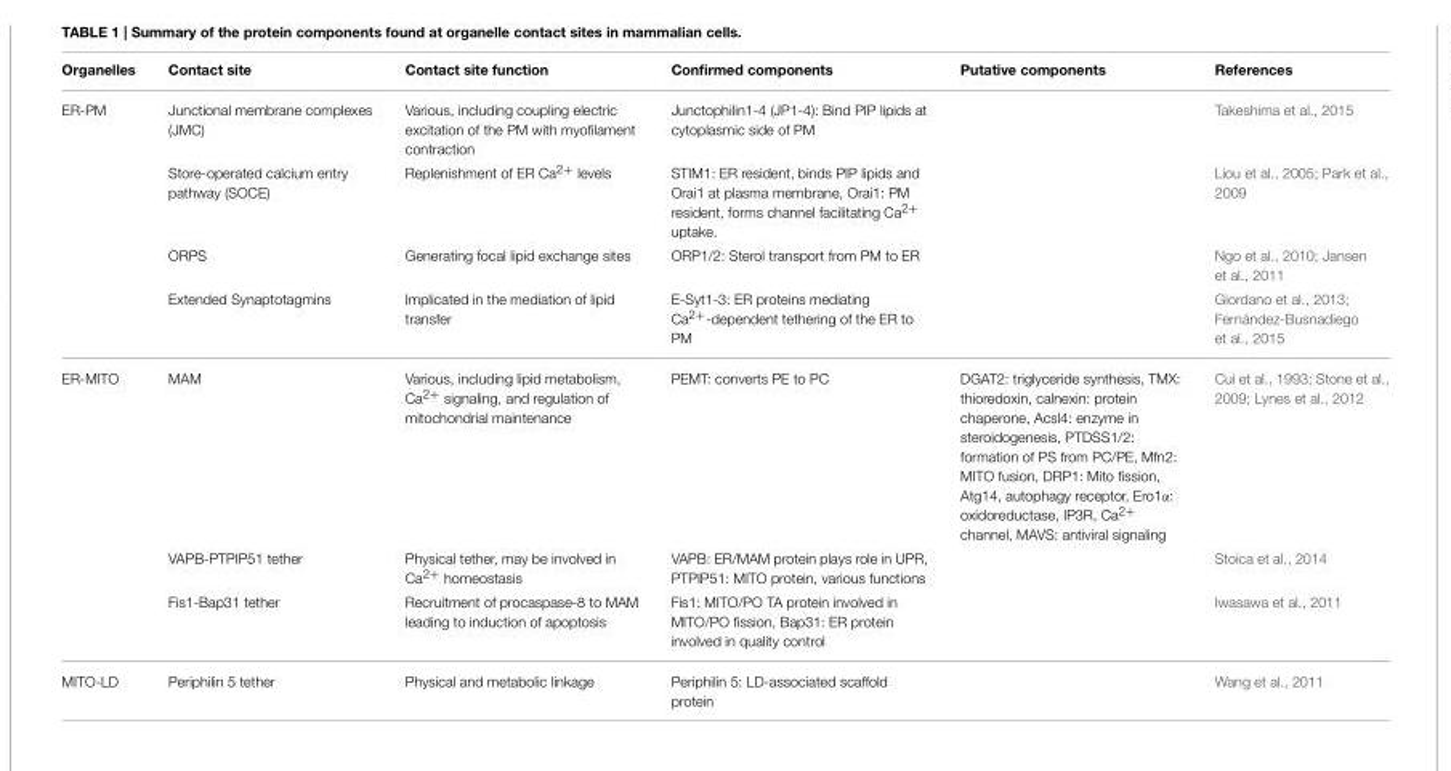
<table><thead><tr><td>Organelles</td><td>Contact site</td><td>Contact site function</td><td>Confirmed components</td><td>Putative components</td><td>References</td></tr></thead><tbody><tr><td rowspan="4">ER-PM</td><td>Junctional membrane complexes (JMC)</td><td>Various, including coupling electric excitation of the PM with myofilament contraction</td><td>Junctophilin1-4 (JP1-4): Bind PIP lipids at cytoplasmic side of PM</td><td></td><td>Takeshima et al., 2015</td></tr><tr><td>Store-operated calcium entry pathway (SOCE)</td><td>Replenishment of ER Ca<sup>2+</sup> levels</td><td>STIM1: ER resident, binds PIP lipids and Orai1 at plasma membrane, Orai1: PM resident, forms channel facilitating Ca<sup>2+</sup> uptake.</td><td></td><td>Liou et al., 2005; Park et al., 2009</td></tr><tr><td>ORPS</td><td>Generating focal lipid exchange sites</td><td>ORP1/2: Sterol transport from PM to ER</td><td></td><td>Ngo et al., 2010; Jansen et al., 2011</td></tr><tr><td>Extended Synaptotagmins</td><td>Implicated in the mediation of lipid transfer</td><td>E-Syt1-3: ER proteins mediating Ca<sup>2+</sup>-dependent tethering of the ER to PM</td><td></td><td>Giordano et al., 2013; Fernández-Busnadiego et al., 2015</td></tr><tr><td rowspan="3">ER-MITO</td><td>MAM</td><td>Various, including lipid metabolism, Ca<sup>2+</sup> signaling, and regulation of mitochondrial maintenance</td><td>PEMT: converts PE to PC</td><td>DGAT2: triglyceride synthesis, TMX: thioredoxin, calnexin: protein chaperone, Acsl4: enzyme in steroidogenesis, PTDSS1/2: formation of PS from PC/PE, Mfn2: MITO fusion, DRP1: Mito fission, Atg14, autophagy receptor, Ero1α: oxidoreductase, IP3R, Ca<sup>2+</sup> channel, MAVS: antiviral signaling</td><td>Cui et al., 1993; Stone et al., 2009; Lynes et al., 2012</td></tr><tr><td>VAPB-PTPIP51 tether</td><td>Physical tether, may be involved in Ca<sup>2+</sup> homeostasis</td><td>VAPB: ER/MAM protein plays role in UPR, PTPIP51: MITO protein, various functions</td><td></td><td>Stoica et al., 2014</td></tr><tr><td>Fis1-Bap31 tether</td><td>Recruitment of procaspase-8 to MAM leading to induction of apoptosis</td><td>Fis1: MITO/PO TA protein involved in MITO/PO fission, Bap31: ER protein involved in quality control</td><td></td><td>Iwasawa et al., 2011</td></tr><tr><td>MITO-LD</td><td>Periphilin 5 tether</td><td>Physical and metabolic linkage</td><td>Periphilin 5: LD-associated scaffold protein</td><td></td><td>Wang et al., 2011</td></tr></tbody></table>